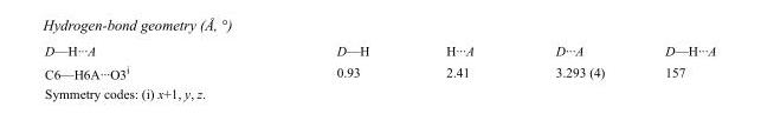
<table><tbody><tr><td>D—H···A</td><td>D—H</td><td>H···A</td><td>D···A</td><td>D—H···A</td></tr><tr><td>C6—H6A···O3<sup>i</sup></td><td>0.93</td><td>2.41</td><td>3.293 (4)</td><td>157</td></tr></tbody></table>